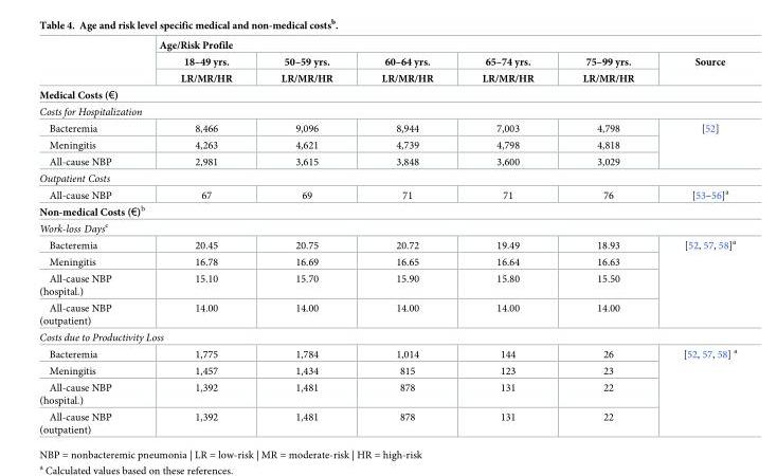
<table><thead><tr><td rowspan="3"></td><td colspan="6">Age/Risk Profile</td></tr><tr><td rowspan="2">18–49 yrs. LR/MR/HR</td><td rowspan="2">50–59 yrs. LR/MR/HR</td><td rowspan="2">60–64 yrs. LR/MR/HR</td><td rowspan="2">65–74 yrs. LR/MR/HR</td><td rowspan="2">75–99 yrs. LR/MR/HR</td><td rowspan="2">Source</td></tr><tr></tr></thead><tbody><tr><td colspan="7">Medical Costs (€)</td></tr><tr><td colspan="7">Costs for Hospitalization</td></tr><tr><td>Bacteremia</td><td>8,466</td><td>9,096</td><td>8,944</td><td>7,003</td><td>4,798</td><td rowspan="3">[52]</td></tr><tr><td>Meningitis</td><td>4,263</td><td>4,621</td><td>4,739</td><td>4,798</td><td>4,818</td></tr><tr><td>All-cause NBP</td><td>2,981</td><td>3,615</td><td>3,848</td><td>3,600</td><td>3,029</td></tr><tr><td colspan="7">Outpatient Costs</td></tr><tr><td>All-cause NBP</td><td>67</td><td>69</td><td>71</td><td>71</td><td>76</td><td>[53–56]<sup>a</sup></td></tr><tr><td colspan="7">Non-medical Costs (€)<sup>b</sup></td></tr><tr><td colspan="7">Work-loss Days<sup>c</sup></td></tr><tr><td>Bacteremia</td><td>20.45</td><td>20.75</td><td>20.72</td><td>19.49</td><td>18.93</td><td rowspan="4">[52, 57, 58]<sup>a</sup></td></tr><tr><td>Meningitis</td><td>16.78</td><td>16.69</td><td>16.65</td><td>16.64</td><td>16.63</td></tr><tr><td>All-cause NBP (hospital.)</td><td>15.10</td><td>15.70</td><td>15.90</td><td>15.80</td><td>15.50</td></tr><tr><td>All-cause NBP (outpatient)</td><td>14.00</td><td>14.00</td><td>14.00</td><td>14.00</td><td>14.00</td></tr><tr><td colspan="7">Costs due to Productivity Loss</td></tr><tr><td>Bacteremia</td><td>1,775</td><td>1,784</td><td>1,014</td><td>144</td><td>26</td><td rowspan="4">[52, 57, 58] <sup>a</sup></td></tr><tr><td>Meningitis</td><td>1,457</td><td>1,434</td><td>815</td><td>123</td><td>23</td></tr><tr><td>All-cause NBP (hospital.)</td><td>1,392</td><td>1,481</td><td>878</td><td>131</td><td>22</td></tr><tr><td>All-cause NBP (outpatient)</td><td>1,392</td><td>1,481</td><td>878</td><td>131</td><td>22</td></tr></tbody></table>